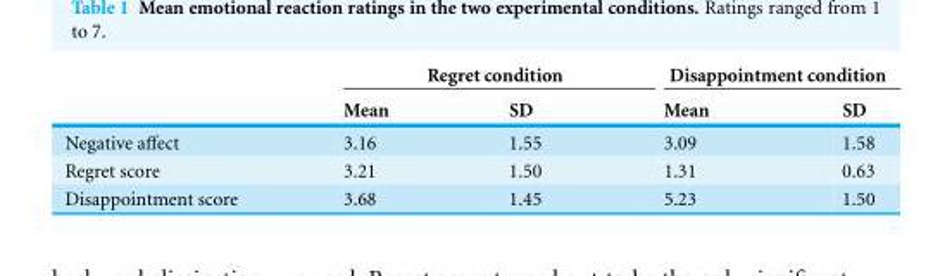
<table><thead><tr><td rowspan="2"></td><td colspan="2">Regret condition</td><td colspan="2">Disappointment condition</td></tr><tr><td>Mean</td><td>SD</td><td>Mean</td><td>SD</td></tr></thead><tbody><tr><td>Negative affect</td><td>3.16</td><td>1.55</td><td>3.09</td><td>1.58</td></tr><tr><td>Regret score</td><td>3.21</td><td>1.50</td><td>1.31</td><td>0.63</td></tr><tr><td>Disappointment score</td><td>3.68</td><td>1.45</td><td>5.23</td><td>1.50</td></tr></tbody></table>